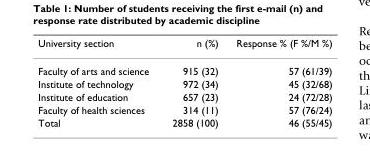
<table><thead><tr><td>University section</td><td>n (%)</td><td>Response % (F %/M %)</td></tr></thead><tbody><tr><td>Faculty of arts and science</td><td>915 (32)</td><td>57 (61/39)</td></tr><tr><td>Institute of technology</td><td>972 (34)</td><td>45 (32/68)</td></tr><tr><td>Institute of education</td><td>657 (23)</td><td>24 (72/28)</td></tr><tr><td>Faculty of health sciences</td><td>314 (11)</td><td>57 (76/24)</td></tr><tr><td>Total</td><td>2858 (100)</td><td>46 (55/45)</td></tr></tbody></table>